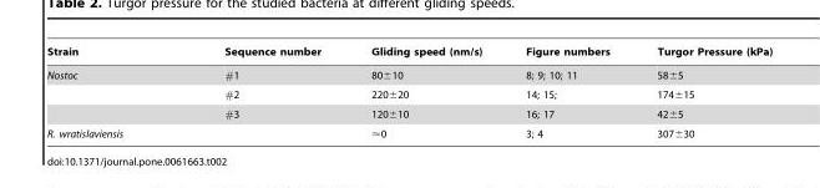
<table><thead><tr><td>Strain</td><td>Sequence number</td><td>Gliding speed (nm/s)</td><td>Figure numbers</td><td>Turgor Pressure (kPa)</td></tr></thead><tbody><tr><td rowspan="3">Nostoc</td><td>#1</td><td>80±10</td><td>8; 9; 10; 11</td><td>58±5</td></tr><tr><td>#2</td><td>220±20</td><td>14; 15;</td><td>174±15</td></tr><tr><td>#3</td><td>120±10</td><td>16; 17</td><td>42±5</td></tr><tr><td>R. wratislaviensis</td><td></td><td>&lt;0</td><td>3; 4</td><td>307±30</td></tr></tbody></table>